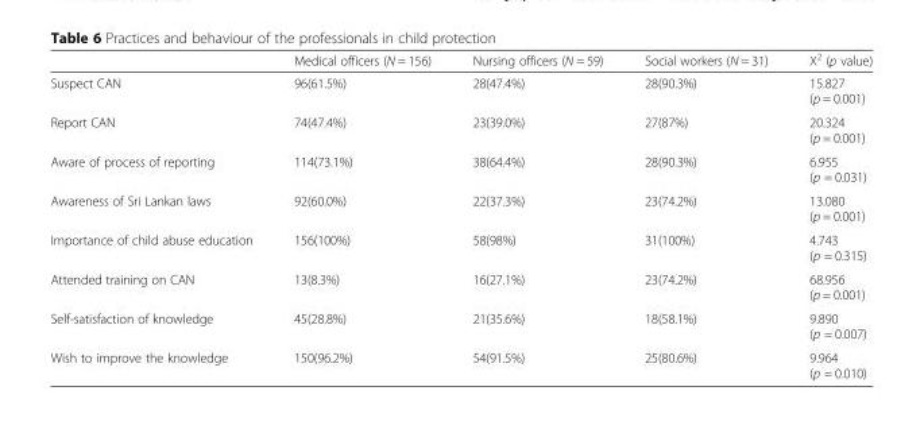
<table><thead><tr><td></td><td>Medical officers (N = 156)</td><td>Nursing officers (N = 59)</td><td>Social workers (N = 31)</td><td>X<sup>2</sup> (p value)</td></tr></thead><tbody><tr><td>Suspect CAN</td><td>96(61.5%)</td><td>28(47.4%)</td><td>28(90.3%)</td><td>15.827 (p = 0.001)</td></tr><tr><td>Report CAN</td><td>74(47.4%)</td><td>23(39.0%)</td><td>27(87%)</td><td>20.324 (p = 0.001)</td></tr><tr><td>Aware of process of reporting</td><td>114(73.1%)</td><td>38(64.4%)</td><td>28(90.3%)</td><td>6.955 (p = 0.031)</td></tr><tr><td>Awareness of Sri Lankan laws</td><td>92(60.0%)</td><td>22(37.3%)</td><td>23(74.2%)</td><td>13.080 (p = 0.001)</td></tr><tr><td>Importance of child abuse education</td><td>156(100%)</td><td>58(98%)</td><td>31(100%)</td><td>4.743 (p = 0.315)</td></tr><tr><td>Attended training on CAN</td><td>13(8.3%)</td><td>16(27.1%)</td><td>23(74.2%)</td><td>68.956 (p = 0.001)</td></tr><tr><td>Self-satisfaction of knowledge</td><td>45(28.8%)</td><td>21(35.6%)</td><td>18(58.1%)</td><td>9.890 (p = 0.007)</td></tr><tr><td>Wish to improve the knowledge</td><td>150(96.2%)</td><td>54(91.5%)</td><td>25(80.6%)</td><td>9.964 (p = 0.010)</td></tr></tbody></table>